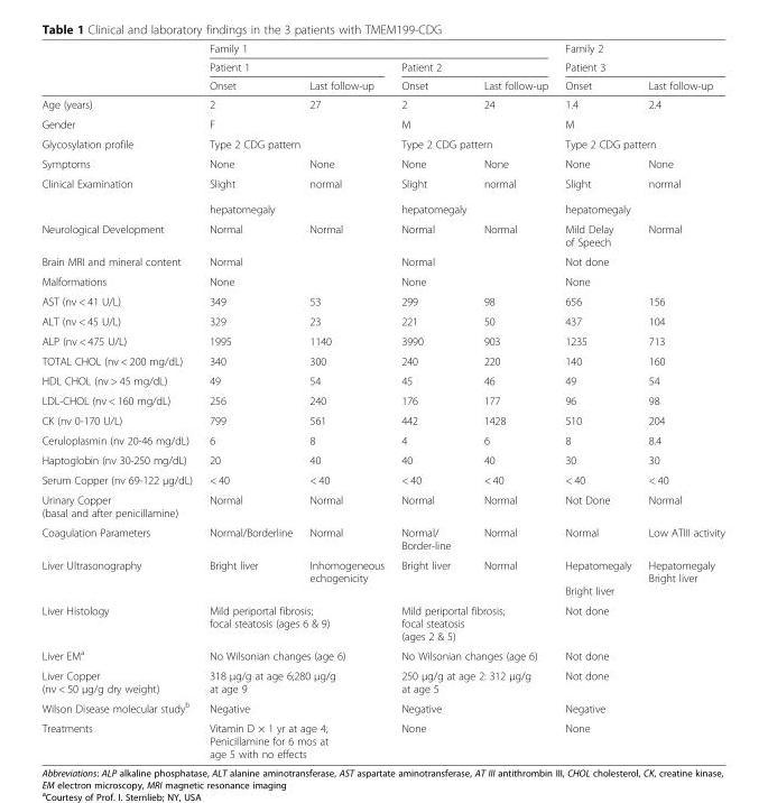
<table><thead><tr><td rowspan="3"></td><td colspan="4">Family 1</td><td rowspan="2" colspan="2">Family 2 Patient 3</td></tr><tr><td colspan="2">Patient 1</td><td colspan="2">Patient 2</td></tr><tr><td>Onset</td><td>Last follow-up</td><td>Onset</td><td>Last follow-up</td><td>Onset</td><td>Last follow-up</td></tr></thead><tbody><tr><td>Age (years)</td><td>2</td><td>27</td><td>2</td><td>24</td><td>1.4</td><td>2.4</td></tr><tr><td>Gender</td><td colspan="2">F</td><td colspan="2">M</td><td colspan="2">M</td></tr><tr><td>Glycosylation profile</td><td colspan="2">Type 2 CDG pattern</td><td colspan="2">Type 2 CDG pattern</td><td colspan="2">Type 2 CDG pattern</td></tr><tr><td>Symptoms</td><td>None</td><td>None</td><td>None</td><td>None</td><td>None</td><td>None</td></tr><tr><td>Clinical Examination</td><td>Slight hepatomegaly</td><td>normal</td><td>Slight hepatomegaly</td><td>normal</td><td>Slight hepatomegaly</td><td>normal</td></tr><tr><td>Neurological Development</td><td>Normal</td><td>Normal</td><td>Normal</td><td>Normal</td><td>Mild Delay of Speech</td><td>Normal</td></tr><tr><td>Brain MRI and mineral content</td><td colspan="2">Normal</td><td colspan="2">Normal</td><td colspan="2">Not done</td></tr><tr><td>Malformations</td><td colspan="2">None</td><td colspan="2">None</td><td colspan="2">None</td></tr><tr><td>AST (nv &lt; 41 U/L)</td><td>349</td><td>53</td><td>299</td><td>98</td><td>656</td><td>156</td></tr><tr><td>ALT (nv &lt; 45 U/L)</td><td>329</td><td>23</td><td>221</td><td>50</td><td>437</td><td>104</td></tr><tr><td>ALP (nv &lt; 475 U/L)</td><td>1995</td><td>1140</td><td>3990</td><td>903</td><td>1235</td><td>713</td></tr><tr><td>TOTAL CHOL (nv &lt; 200 mg/dL)</td><td>340</td><td>300</td><td>240</td><td>220</td><td>140</td><td>160</td></tr><tr><td>HDL CHOL (nv &gt; 45 mg/dL)</td><td>49</td><td>54</td><td>45</td><td>46</td><td>49</td><td>54</td></tr><tr><td>LDL-CHOL (nv &lt; 160 mg/dL)</td><td>256</td><td>240</td><td>176</td><td>177</td><td>96</td><td>98</td></tr><tr><td>CK (nv 0-170 U/L)</td><td>799</td><td>561</td><td>442</td><td>1428</td><td>510</td><td>204</td></tr><tr><td>Ceruloplasmin (nv 20-46 mg/dL)</td><td>6</td><td>8</td><td>4</td><td>6</td><td>8</td><td>8.4</td></tr><tr><td>Haptoglobin (nv 30-250 mg/dL)</td><td>20</td><td>40</td><td>40</td><td>40</td><td>30</td><td>30</td></tr><tr><td>Serum Copper (nv 69-122 μg/dL)</td><td>&lt; 40</td><td>&lt; 40</td><td>&lt; 40</td><td>&lt; 40</td><td>&lt; 40</td><td>&lt; 40</td></tr><tr><td>Urinary Copper (basal and after penicillamine)</td><td>Normal</td><td>Normal</td><td>Normal</td><td>Normal</td><td>Not Done</td><td>Normal</td></tr><tr><td>Coagulation Parameters</td><td>Normal/Borderline</td><td>Normal</td><td>Normal/ Border-line</td><td>Normal</td><td>Normal</td><td>Low ATIII activity</td></tr><tr><td>Liver Ultrasonography</td><td>Bright liver</td><td>Inhomogeneous echogenicity</td><td>Bright liver</td><td>Normal</td><td>Hepatomegaly Bright liver</td><td>Hepatomegaly Bright liver</td></tr><tr><td>Liver Histology</td><td colspan="2">Mild periportal fibrosis; focal steatosis (ages 6 &amp; 9)</td><td colspan="2">Mild periportal fibrosis; focal steatosis (ages 2 &amp; 5)</td><td colspan="2">Not done</td></tr><tr><td>Liver EM<sup>a</sup></td><td colspan="2">No Wilsonian changes (age 6)</td><td colspan="2">No Wilsonian changes (age 6)</td><td colspan="2">Not done</td></tr><tr><td>Liver Copper (nv &lt; 50 μg/g dry weight)</td><td colspan="2">318 μg/g at age 6;280 μg/g at age 9</td><td colspan="2">250 μg/g at age 2: 312 μg/g at age 5</td><td colspan="2">Not done</td></tr><tr><td>Wilson Disease molecular study<sup>b</sup></td><td colspan="2">Negative</td><td colspan="2">Negative</td><td colspan="2">Negative</td></tr><tr><td>Treatments</td><td colspan="2">Vitamin D × 1 yr at age 4; Penicillamine for 6 mos at age 5 with no effects</td><td colspan="2">None</td><td colspan="2">None</td></tr></tbody></table>